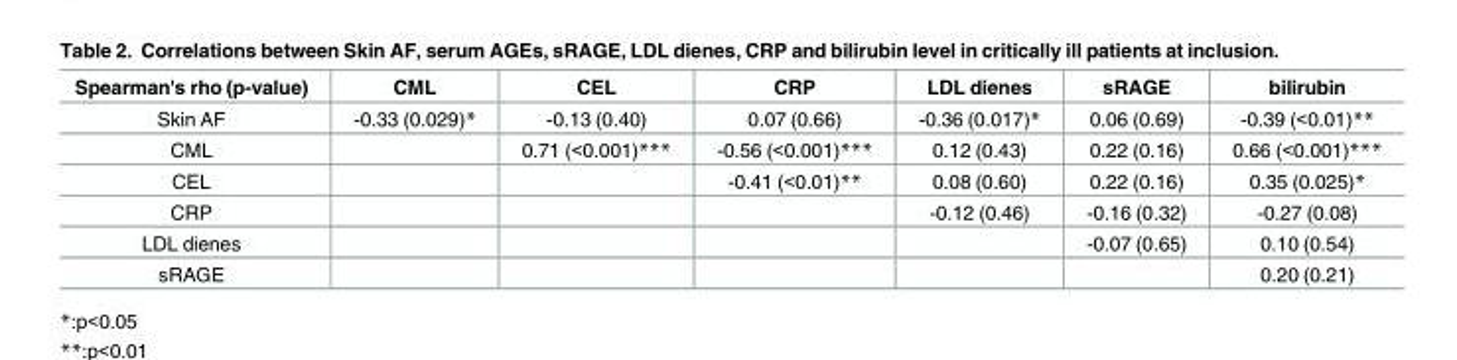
<table><thead><tr><td>Spearman&#x27;s rho (p-value)</td><td>CML</td><td>CEL</td><td>CRP</td><td>LDL dienes</td><td>sRAGE</td><td>bilirubin</td></tr></thead><tbody><tr><td>Skin AF</td><td>-0.33 (0.029)*</td><td>-0.13 (0.40)</td><td>0.07 (0.66)</td><td>-0.36 (0.017)*</td><td>0.06 (0.69)</td><td>-0.39 (&lt;0.01)**</td></tr><tr><td>CML</td><td></td><td>0.71 (&lt;0.001)***</td><td>-0.56 (&lt;0.001)***</td><td>0.12 (0.43)</td><td>0.22 (0.16)</td><td>0.66 (&lt;0.001)***</td></tr><tr><td>CEL</td><td></td><td></td><td>-0.41 (&lt;0.01)**</td><td>0.08 (0.60)</td><td>0.22 (0.16)</td><td>0.35 (0.025)*</td></tr><tr><td>CRP</td><td></td><td></td><td></td><td>-0.12 (0.46)</td><td>-0.16 (0.32)</td><td>-0.27 (0.08)</td></tr><tr><td>LDL dienes</td><td></td><td></td><td></td><td></td><td>-0.07 (0.65)</td><td>0.10 (0.54)</td></tr><tr><td>sRAGE</td><td></td><td></td><td></td><td></td><td></td><td>0.20 (0.21)</td></tr></tbody></table>